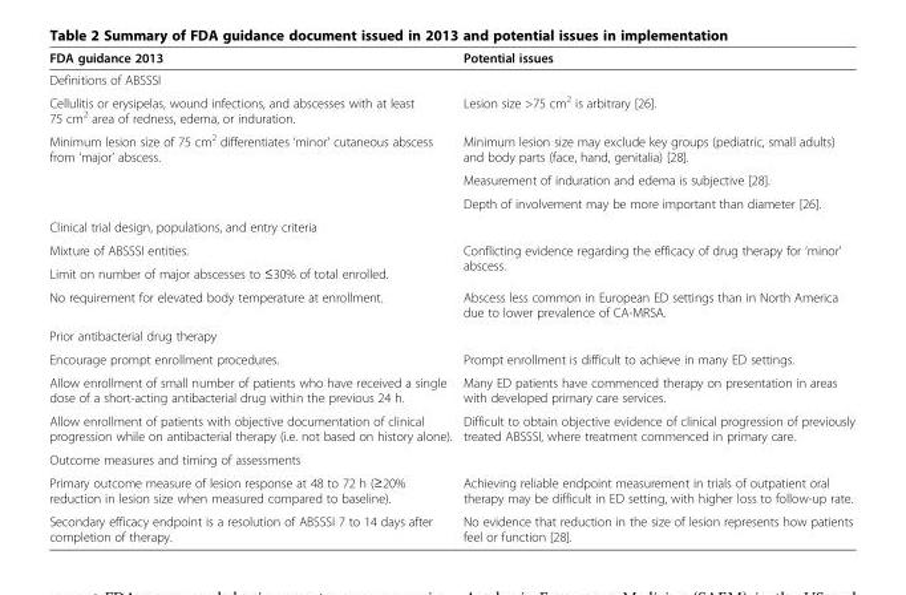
<table><thead><tr><td>FDA guidance 2013</td><td>Potential issues</td></tr></thead><tbody><tr><td colspan="2">Definitions of ABSSSI</td></tr><tr><td>Cellulitis or erysipelas, wound infections, and abscesses with at least 75 cm<sup>2</sup> area of redness, edema, or induration.</td><td>Lesion size &gt;75 cm<sup>2</sup> is arbitrary [26].</td></tr><tr><td rowspan="3">Minimum lesion size of 75 cm<sup>2</sup> differentiates ‘minor’ cutaneous abscess from ‘major’ abscess.</td><td>Minimum lesion size may exclude key groups (pediatric, small adults) and body parts (face, hand, genitalia) [28].</td></tr><tr><td>Measurement of induration and edema is subjective [28].</td></tr><tr><td>Depth of involvement may be more important than diameter [26].</td></tr><tr><td colspan="2">Clinical trial design, populations, and entry criteria</td></tr><tr><td>Mixture of ABSSSI entities.</td><td rowspan="2">Conflicting evidence regarding the efficacy of drug therapy for ‘minor’ abscess.</td></tr><tr><td>Limit on number of major abscesses to ≤30% of total enrolled.</td></tr><tr><td>No requirement for elevated body temperature at enrollment.</td><td>Abscess less common in European ED settings than in North America due to lower prevalence of CA-MRSA.</td></tr><tr><td colspan="2">Prior antibacterial drug therapy</td></tr><tr><td>Encourage prompt enrollment procedures.</td><td>Prompt enrollment is difficult to achieve in many ED settings.</td></tr><tr><td>Allow enrollment of small number of patients who have received a single dose of a short-acting antibacterial drug within the previous 24 h.</td><td>Many ED patients have commenced therapy on presentation in areas with developed primary care services.</td></tr><tr><td>Allow enrollment of patients with objective documentation of clinical progression while on antibacterial therapy (i.e. not based on history alone).</td><td>Difficult to obtain objective evidence of clinical progression of previously treated ABSSSI, where treatment commenced in primary care.</td></tr><tr><td colspan="2">Outcome measures and timing of assessments</td></tr><tr><td>Primary outcome measure of lesion response at 48 to 72 h (≥20% reduction in lesion size when measured compared to baseline).</td><td>Achieving reliable endpoint measurement in trials of outpatient oral therapy may be difficult in ED setting, with higher loss to follow-up rate.</td></tr><tr><td>Secondary efficacy endpoint is a resolution of ABSSSI 7 to 14 days after completion of therapy.</td><td>No evidence that reduction in the size of lesion represents how patients feel or function [28].</td></tr></tbody></table>